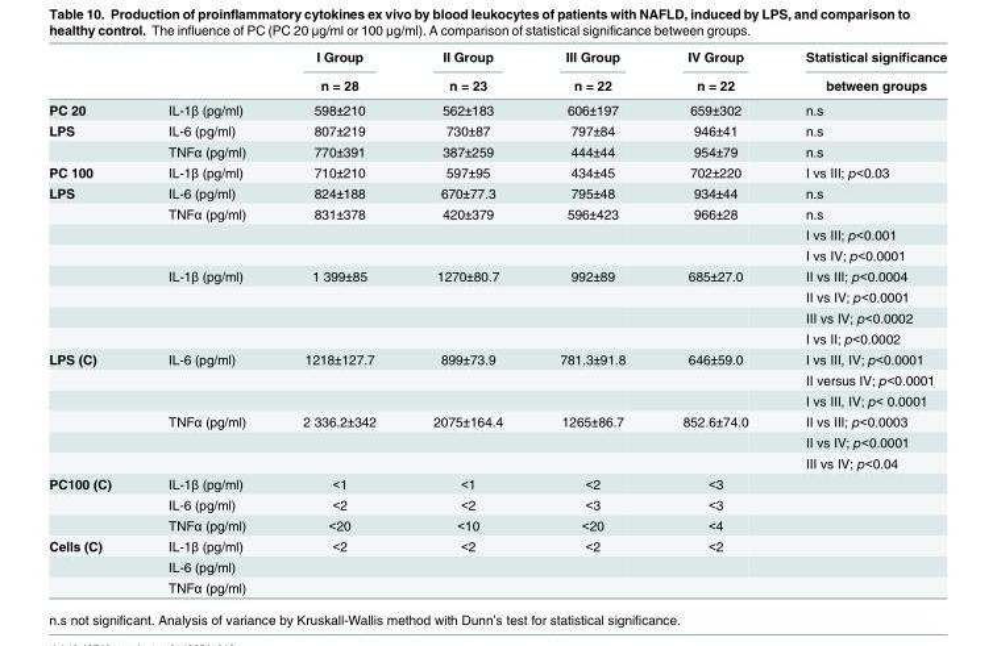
<table><thead><tr><td rowspan="2"></td><td rowspan="2"></td><td rowspan="2">I Group n = 28</td><td rowspan="2">II Group n = 23</td><td rowspan="2">III Group n = 22</td><td rowspan="2">IV Group n = 22</td><td rowspan="2">Statistical significance between groups</td></tr><tr></tr></thead><tbody><tr><td>PC 20</td><td>IL-1β (pg/ml)</td><td>598±210</td><td>562±183</td><td>606±197</td><td>659±302</td><td>n.s</td></tr><tr><td rowspan="2">LPS</td><td>IL-6 (pg/ml)</td><td>807±219</td><td>730±87</td><td>797±84</td><td>946±41</td><td>n.s</td></tr><tr><td>TNFα (pg/ml)</td><td>770±391</td><td>387±259</td><td>444±44</td><td>954±79</td><td>n.s</td></tr><tr><td>PC 100</td><td>IL-1β (pg/ml)</td><td>710±210</td><td>597±95</td><td>434±45</td><td>702±220</td><td>I vs III; p&lt;0.03</td></tr><tr><td rowspan="8">LPS</td><td>IL-6 (pg/ml)</td><td>824±188</td><td>670±77.3</td><td>795±48</td><td>934±44</td><td>n.s</td></tr><tr><td>TNFα (pg/ml)</td><td>831±378</td><td>420±379</td><td>596±423</td><td>966±28</td><td>n.s</td></tr><tr><td></td><td></td><td></td><td></td><td></td><td>I vs III; p&lt;0.001</td></tr><tr><td></td><td></td><td></td><td></td><td></td><td>I vs IV; p&lt;0.0001</td></tr><tr><td>IL-1β (pg/ml)</td><td>1 399±85</td><td>1270±80.7</td><td>992±89</td><td>685±27.0</td><td>II vs III; p&lt;0.0004</td></tr><tr><td></td><td></td><td></td><td></td><td></td><td>II vs IV; p&lt;0.0001</td></tr><tr><td></td><td></td><td></td><td></td><td></td><td>III vs IV; p&lt;0.0002</td></tr><tr><td></td><td></td><td></td><td></td><td></td><td>I vs II; p&lt;0.0002</td></tr><tr><td rowspan="6">LPS (C)</td><td>IL-6 (pg/ml)</td><td>1218±127.7</td><td>899±73.9</td><td>781.3±91.8</td><td>646±59.0</td><td>I vs III, IV; p&lt;0.0001</td></tr><tr><td></td><td></td><td></td><td></td><td></td><td>II versus IV; p&lt;0.0001</td></tr><tr><td></td><td></td><td></td><td></td><td></td><td>I vs III, IV; p&lt; 0.0001</td></tr><tr><td>TNFα (pg/ml)</td><td>2 336.2±342</td><td>2075±164.4</td><td>1265±86.7</td><td>852.6±74.0</td><td>II vs III; p&lt;0.0003</td></tr><tr><td></td><td></td><td></td><td></td><td></td><td>II vs IV; p&lt;0.0001</td></tr><tr><td></td><td></td><td></td><td></td><td></td><td>III vs IV; p&lt;0.04</td></tr><tr><td rowspan="3">PC100 (C)</td><td>IL-1β (pg/ml)</td><td>&lt;1</td><td>&lt;1</td><td>&lt;2</td><td>&lt;3</td><td></td></tr><tr><td>IL-6 (pg/ml)</td><td>&lt;2</td><td>&lt;2</td><td>&lt;3</td><td>&lt;3</td><td></td></tr><tr><td>TNFα (pg/ml)</td><td>&lt;20</td><td>&lt;10</td><td>&lt;20</td><td>&lt;4</td><td></td></tr><tr><td rowspan="3">Cells (C)</td><td>IL-1β (pg/ml)</td><td>&lt;2</td><td>&lt;2</td><td>&lt;2</td><td>&lt;2</td><td></td></tr><tr><td>IL-6 (pg/ml)</td><td></td><td></td><td></td><td></td><td></td></tr><tr><td>TNFα (pg/ml)</td><td></td><td></td><td></td><td></td><td></td></tr></tbody></table>